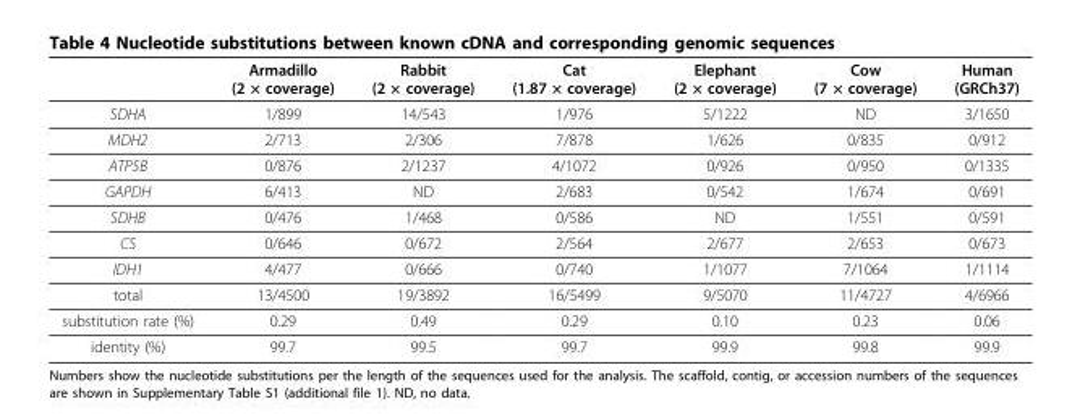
<table><thead><tr><td></td><td>Armadillo (2 × coverage)</td><td>Rabbit (2 × coverage)</td><td>Cat (1.87 × coverage)</td><td>Elephant (2 × coverage)</td><td>Cow (7 × coverage)</td><td>Human (GRCh37)</td></tr></thead><tbody><tr><td>SDHA</td><td>1/899</td><td>14/543</td><td>1/976</td><td>5/1222</td><td>ND</td><td>3/1650</td></tr><tr><td>MDH2</td><td>2/713</td><td>2/306</td><td>7/878</td><td>1/626</td><td>0/835</td><td>0/912</td></tr><tr><td>ATP5B</td><td>0/876</td><td>2/1237</td><td>4/1072</td><td>0/926</td><td>0/950</td><td>0/1335</td></tr><tr><td>GAPDH</td><td>6/413</td><td>ND</td><td>2/683</td><td>0/542</td><td>1/674</td><td>0/691</td></tr><tr><td>SDHB</td><td>0/476</td><td>1/468</td><td>0/586</td><td>ND</td><td>1/551</td><td>0/591</td></tr><tr><td>CS</td><td>0/646</td><td>0/672</td><td>2/564</td><td>2/677</td><td>2/653</td><td>0/673</td></tr><tr><td>IDH1</td><td>4/477</td><td>0/666</td><td>0/740</td><td>1/1077</td><td>7/1064</td><td>1/1114</td></tr><tr><td>total</td><td>13/4500</td><td>19/3892</td><td>16/5499</td><td>9/5070</td><td>11/4727</td><td>4/6966</td></tr><tr><td>substitution rate (%)</td><td>0.29</td><td>0.49</td><td>0.29</td><td>0.10</td><td>0.23</td><td>0.06</td></tr><tr><td>identity (%)</td><td>99.7</td><td>99.5</td><td>99.7</td><td>99.9</td><td>99.8</td><td>99.9</td></tr></tbody></table>